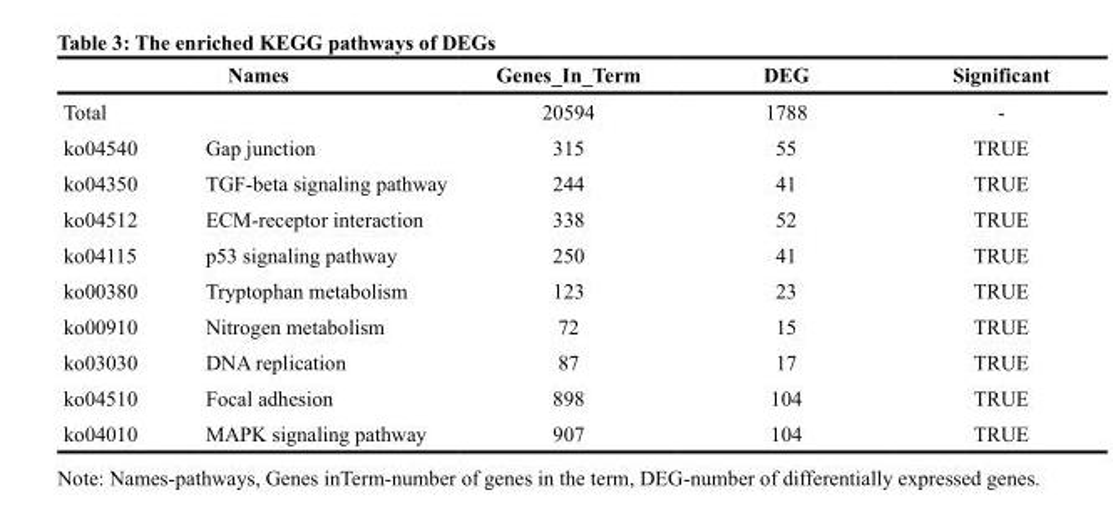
<table><thead><tr><td rowspan="2" colspan="2">Names Total</td><td rowspan="3">Genes_In_Term 20594 315</td><td rowspan="3">DEG 1788 55</td><td rowspan="3">Significant - TRUE</td></tr><tr></tr><tr><td>ko04540</td><td>Gap junction</td></tr></thead><tbody><tr><td>ko04350</td><td>TGF-beta signaling pathway</td><td>244</td><td>41</td><td>TRUE</td></tr><tr><td>ko04512</td><td>ECM-receptor interaction</td><td>338</td><td>52</td><td>TRUE</td></tr><tr><td>ko04115</td><td>p53 signaling pathway</td><td>250</td><td>41</td><td>TRUE</td></tr><tr><td>ko00380</td><td>Tryptophan metabolism</td><td>123</td><td>23</td><td>TRUE</td></tr><tr><td>ko00910</td><td>Nitrogen metabolism</td><td>72</td><td>15</td><td>TRUE</td></tr><tr><td>ko03030</td><td>DNA replication</td><td>87</td><td>17</td><td>TRUE</td></tr><tr><td>ko04510</td><td>Focal adhesion</td><td>898</td><td>104</td><td>TRUE</td></tr><tr><td>ko04010</td><td>MAPK signaling pathway</td><td>907</td><td>104</td><td>TRUE</td></tr></tbody></table>